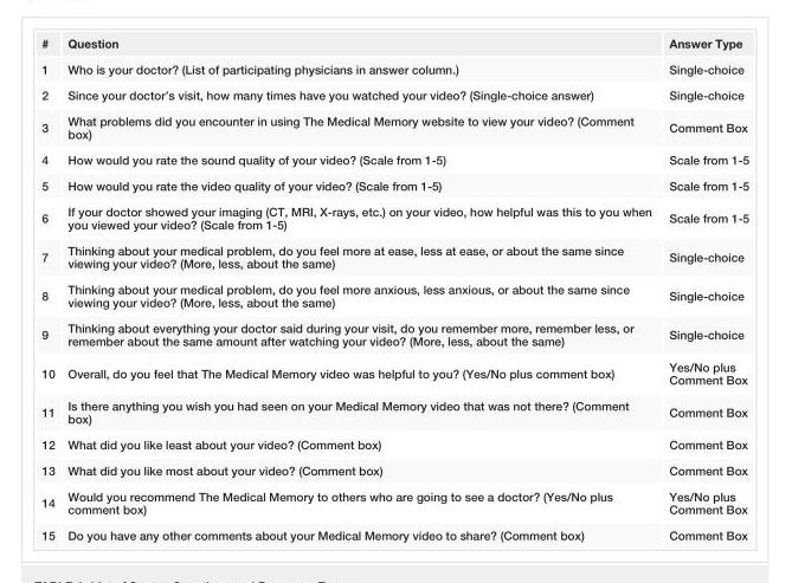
<table><tbody><tr><td>#</td><td>Question</td><td>Answer Type</td></tr><tr><td>1</td><td>Who is your doctor? (List of participating physicians in answer column.)</td><td>Single-choice</td></tr><tr><td>2</td><td>Since your doctor’s visit, how many times have you watched your video? (Single-choice answer)</td><td>Single-choice</td></tr><tr><td>3</td><td>What problems did you encounter in using The Medical Memory website to view your video? (Comment box)</td><td>Comment Box</td></tr><tr><td>4</td><td>How would you rate the sound quality of your video? (Scale from 1-5)</td><td>Scale from 1-5</td></tr><tr><td>5</td><td>How would you rate the video quality of your video? (Scale from 1-5)</td><td>Scale from 1-5</td></tr><tr><td>6</td><td>If your doctor showed your imaging (CT, MRI, X-rays, etc.) on your video, how helpful was this to you when you viewed your video? (Scale from 1-5)</td><td>Scale from 1-5</td></tr><tr><td>7</td><td>Thinking about your medical problem, do you feel more at ease, less at ease, or about the same since viewing your video? (More, less, about the same)</td><td>Single-choice</td></tr><tr><td>8</td><td>Thinking about your medical problem, do you feel more anxious, less anxious, or about the same since viewing your video? (More, less, about the same)</td><td>Single-choice</td></tr><tr><td>9</td><td>Thinking about everything your doctor said during your visit, do you remember more, remember less, or remember about the same amount after watching your video? (More, less, about the same)</td><td>Single-choice</td></tr><tr><td>10</td><td>Overall, do you feel that The Medical Memory video was helpful to you? (Yes/No plus comment box)</td><td>Yes/No plus Comment Box</td></tr><tr><td>11</td><td>Is there anything you wish you had seen on your Medical Memory video that was not there? (Comment box)</td><td>Comment Box</td></tr><tr><td>12</td><td>What did you like least about your video? (Comment box)</td><td>Comment Box</td></tr><tr><td>13</td><td>What did you like most about your video? (Comment box)</td><td>Comment Box</td></tr><tr><td>14</td><td>Would you recommend The Medical Memory to others who are going to see a doctor? (Yes/No plus comment box)</td><td>Yes/No plus Comment Box</td></tr><tr><td>15</td><td>Do you have any other comments about your Medical Memory video to share? (Comment box)</td><td>Comment Box</td></tr></tbody></table>